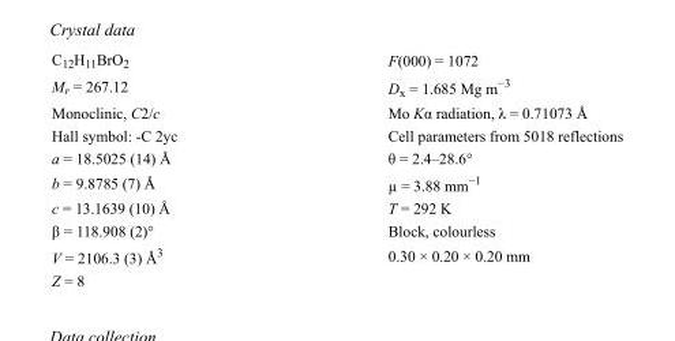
<table><tbody><tr><td>C<sub>12</sub>H<sub>11</sub>BrO<sub>2</sub></td><td>F(000) = 1072</td></tr><tr><td>M<sub>r</sub> = 267.12</td><td>D<sub>x</sub> = 1.685 Mg m<sup>−3</sup></td></tr><tr><td>Monoclinic, C2/c</td><td>Mo Kα radiation, λ = 0.71073 Å</td></tr><tr><td>Hall symbol: -C 2yc</td><td>Cell parameters from 5018 reflections</td></tr><tr><td>a = 18.5025 (14) Å</td><td>θ = 2.4–28.6°</td></tr><tr><td>b = 9.8785 (7) Å</td><td>µ = 3.88 mm<sup>−1</sup></td></tr><tr><td>c = 13.1639 (10) Å</td><td>T = 292 K</td></tr><tr><td>β = 118.908 (2)°</td><td>Block, colourless</td></tr><tr><td>V = 2106.3 (3) Å<sup>3</sup></td><td>0.30 × 0.20 × 0.20 mm</td></tr><tr><td>Z = 8</td><td></td></tr></tbody></table>